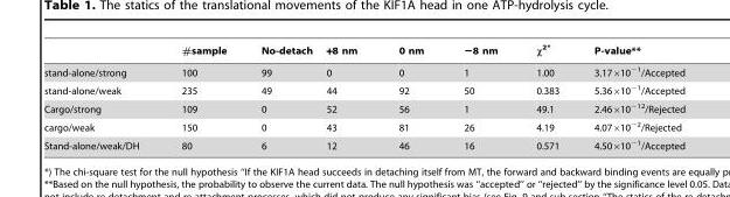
<table><thead><tr><td></td><td>#sample</td><td>No-detach</td><td>+8 nm</td><td>0 nm</td><td>−8 nm</td><td>x2*</td><td>P-value**</td></tr></thead><tbody><tr><td>stand-alone/strong</td><td>100</td><td>99</td><td>0</td><td>0</td><td>1</td><td>1.00</td><td>3.17×10<sup>−1</sup>/Accepted</td></tr><tr><td>stand-alone/weak</td><td>235</td><td>49</td><td>44</td><td>92</td><td>50</td><td>0.383</td><td>5.36×10<sup>−1</sup>/Accepted</td></tr><tr><td>Cargo/strong</td><td>109</td><td>0</td><td>52</td><td>56</td><td>1</td><td>49.1</td><td>2.46×10<sup>−12</sup>/Rejected</td></tr><tr><td>cargo/weak</td><td>150</td><td>0</td><td>43</td><td>81</td><td>26</td><td>4.19</td><td>4.07×10<sup>−2</sup>/Rejected</td></tr><tr><td>Stand-alone/weak/DH</td><td>80</td><td>6</td><td>12</td><td>46</td><td>16</td><td>0.571</td><td>4.50×10<sup>−1</sup>/Accepted</td></tr></tbody></table>